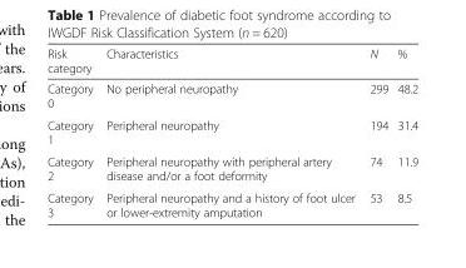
<table><thead><tr><td>Risk category</td><td>Characteristics</td><td>N</td><td>%</td></tr></thead><tbody><tr><td>Category 0</td><td>No peripheral neuropathy</td><td>299</td><td>48.2</td></tr><tr><td>Category 1</td><td>Peripheral neuropathy</td><td>194</td><td>31.4</td></tr><tr><td>Category 2</td><td>Peripheral neuropathy with peripheral artery disease and/or a foot deformity</td><td>74</td><td>11.9</td></tr><tr><td>Category 3</td><td>Peripheral neuropathy and a history of foot ulcer or lower-extremity amputation</td><td>53</td><td>8.5</td></tr></tbody></table>